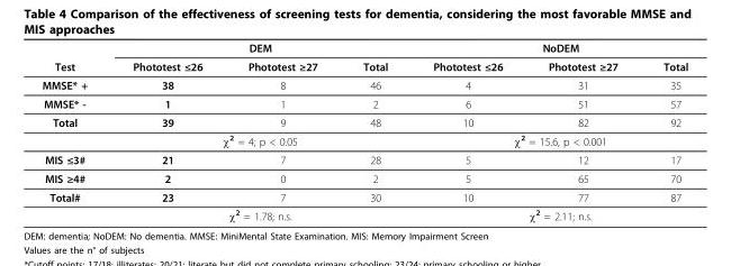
<table><thead><tr><td rowspan="2">Test</td><td colspan="3">DEM</td><td colspan="3">NoDEM</td></tr><tr><td>Phototest ≤26</td><td>Phototest ≥27</td><td>Total</td><td>Phototest ≤26</td><td>Phototest ≥27</td><td>Total</td></tr></thead><tbody><tr><td>MMSE* +</td><td>38</td><td>8</td><td>46</td><td>4</td><td>31</td><td>35</td></tr><tr><td>MMSE* -</td><td>1</td><td>1</td><td>2</td><td>6</td><td>51</td><td>57</td></tr><tr><td rowspan="2">Total</td><td>39</td><td>9</td><td>48</td><td>10</td><td>82</td><td>92</td></tr><tr><td colspan="3">χ<sup>2</sup> = 4; p &lt; 0.05</td><td colspan="3">χ<sup>2</sup> = 15.6, p &lt; 0.001</td></tr><tr><td>MIS ≤3#</td><td>21</td><td>7</td><td>28</td><td>5</td><td>12</td><td>17</td></tr><tr><td>MIS ≥4#</td><td>2</td><td>0</td><td>2</td><td>5</td><td>65</td><td>70</td></tr><tr><td rowspan="2">Total#</td><td>23</td><td>7</td><td>30</td><td>10</td><td>77</td><td>87</td></tr><tr><td colspan="3">χ<sup>2</sup> = 1.78; n.s.</td><td colspan="3">χ<sup>2</sup> = 2.11; n.s.</td></tr></tbody></table>